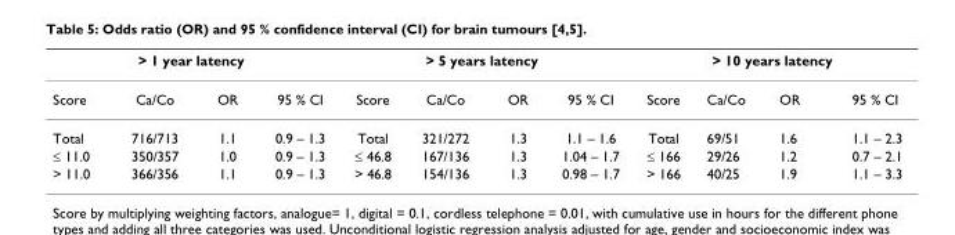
<table><thead><tr><td colspan="4">&gt; 1 year latency</td><td colspan="4">&gt; 5 years latency</td><td colspan="4">&gt; 10 years latency</td></tr><tr><td>Score</td><td>Ca/Co</td><td>OR</td><td>95 % CI</td><td>Score</td><td>Ca/Co</td><td>OR</td><td>95 % CI</td><td>Score</td><td>Ca/Co</td><td>OR</td><td>95 % CI</td></tr></thead><tbody><tr><td>Total</td><td>716/713</td><td>1.1</td><td>0.9 – 1.3</td><td>Total</td><td>321/272</td><td>1.3</td><td>1.1 – 1.6</td><td>Total</td><td>69/51</td><td>1.6</td><td>1.1 – 2.3</td></tr><tr><td>≤ 11.0</td><td>350/357</td><td>1.0</td><td>0.9 – 1.3</td><td>≤ 46.8</td><td>167/136</td><td>1.3</td><td>1.04 – 1.7</td><td>≤ 166</td><td>29/26</td><td>1.2</td><td>0.7 – 2.1</td></tr><tr><td>&gt; 11.0</td><td>366/356</td><td>1.1</td><td>0.9 – 1.3</td><td>&gt; 46.8</td><td>154/136</td><td>1.3</td><td>0.98 – 1.7</td><td>&gt; 166</td><td>40/25</td><td>1.9</td><td>1.1 – 3.3</td></tr></tbody></table>